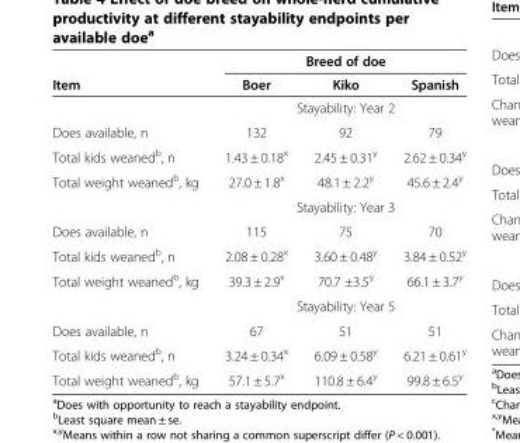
<table><thead><tr><td rowspan="2">Item</td><td colspan="3">Breed of doe</td></tr><tr><td>Boer</td><td>Kiko</td><td>Spanish</td></tr></thead><tbody><tr><td></td><td colspan="3">Stayability: Year 2</td></tr><tr><td>Does available, n</td><td>132</td><td>92</td><td>79</td></tr><tr><td>Total kids weaned<sup>b</sup>, n</td><td>1.43 ± 0.18<sup>x</sup></td><td>2.45 ± 0.31<sup>y</sup></td><td>2.62 ± 0.34<sup>y</sup></td></tr><tr><td rowspan="2">Total weight weaned<sup>b</sup>, kg</td><td>27.0 ± 1.8<sup>x</sup></td><td>48.1 ± 2.2<sup>y</sup></td><td>45.6 ± 2.4<sup>y</sup></td></tr><tr><td colspan="3">Stayability: Year 3</td></tr><tr><td>Does available, n</td><td>115</td><td>75</td><td>70</td></tr><tr><td>Total kids weaned<sup>b</sup>, n</td><td>2.08 ± 0.28<sup>x</sup></td><td>3.60 ± 0.48<sup>y</sup></td><td>3.84 ± 0.52<sup>y</sup></td></tr><tr><td rowspan="2">Total weight weaned<sup>b</sup>, kg</td><td>39.3 ± 2.9<sup>x</sup></td><td>70.7 ±3.5<sup>y</sup></td><td>66.1 ± 3.7<sup>y</sup></td></tr><tr><td colspan="3">Stayability: Year 5</td></tr><tr><td>Does available, n</td><td>67</td><td>51</td><td>51</td></tr><tr><td>Total kids weaned<sup>b</sup>, n</td><td>3.24 ± 0.34<sup>x</sup></td><td>6.09 ± 0.58<sup>y</sup></td><td>6.21 ± 0.61<sup>y</sup></td></tr><tr><td>Total weight weaned<sup>b</sup>, kg</td><td>57.1 ± 5.7<sup>x</sup></td><td>110.8 ± 6.4<sup>y</sup></td><td>99.8 ± 6.5<sup>y</sup></td></tr></tbody></table>